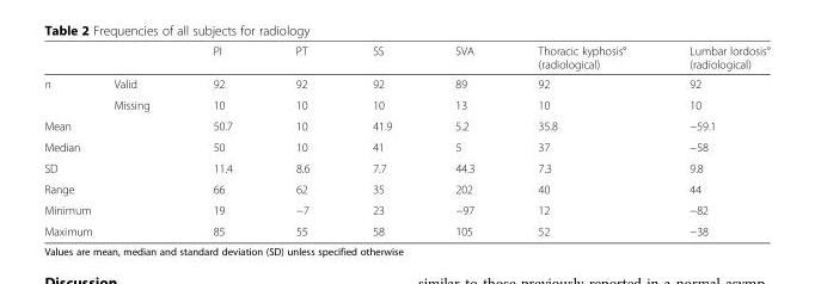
<table><thead><tr><td></td><td></td><td>PI</td><td>PT</td><td>SS</td><td>SVA</td><td>Thoracic kyphosis° (radiological)</td><td>Lumbar lordosis° (radiological)</td></tr></thead><tbody><tr><td rowspan="2">n</td><td>Valid</td><td>92</td><td>92</td><td>92</td><td>89</td><td>92</td><td>92</td></tr><tr><td>Missing</td><td>10</td><td>10</td><td>10</td><td>13</td><td>10</td><td>10</td></tr><tr><td colspan="2">Mean</td><td>50.7</td><td>10</td><td>41.9</td><td>5.2</td><td>35.8</td><td>−59.1</td></tr><tr><td colspan="2">Median</td><td>50</td><td>10</td><td>41</td><td>5</td><td>37</td><td>−58</td></tr><tr><td colspan="2">SD</td><td>11.4</td><td>8.6</td><td>7.7</td><td>44.3</td><td>7.3</td><td>9.8</td></tr><tr><td colspan="2">Range</td><td>66</td><td>62</td><td>35</td><td>202</td><td>40</td><td>44</td></tr><tr><td colspan="2">Minimum</td><td>19</td><td>−7</td><td>23</td><td>−97</td><td>12</td><td>−82</td></tr><tr><td colspan="2">Maximum</td><td>85</td><td>55</td><td>58</td><td>105</td><td>52</td><td>−38</td></tr></tbody></table>